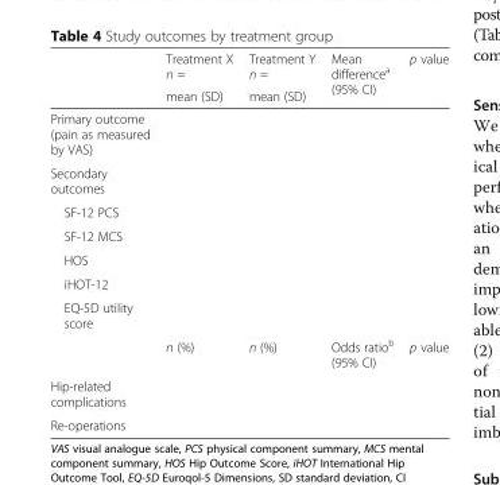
<table><thead><tr><td rowspan="2"></td><td rowspan="2">Treatment X n = mean (SD)</td><td rowspan="2">Treatment Y n = mean (SD)</td><td rowspan="2">Mean difference<sup>a</sup> (95% CI)</td><td rowspan="2">p value</td></tr><tr></tr></thead><tbody><tr><td colspan="5">Primary outcome (pain as measured by VAS)</td></tr><tr><td colspan="5">Secondary outcomes</td></tr><tr><td colspan="5">SF-12 PCS</td></tr><tr><td colspan="5">SF-12 MCS</td></tr><tr><td colspan="5">HOS</td></tr><tr><td colspan="5">iHOT-12</td></tr><tr><td colspan="5">EQ-5D utility score</td></tr><tr><td></td><td>n (%)</td><td>n (%)</td><td>Odds ratio<sup>b</sup> (95% CI)</td><td>p value</td></tr><tr><td colspan="5">Hip-related complications</td></tr><tr><td>Re-operations</td><td></td><td></td><td></td><td></td></tr></tbody></table>